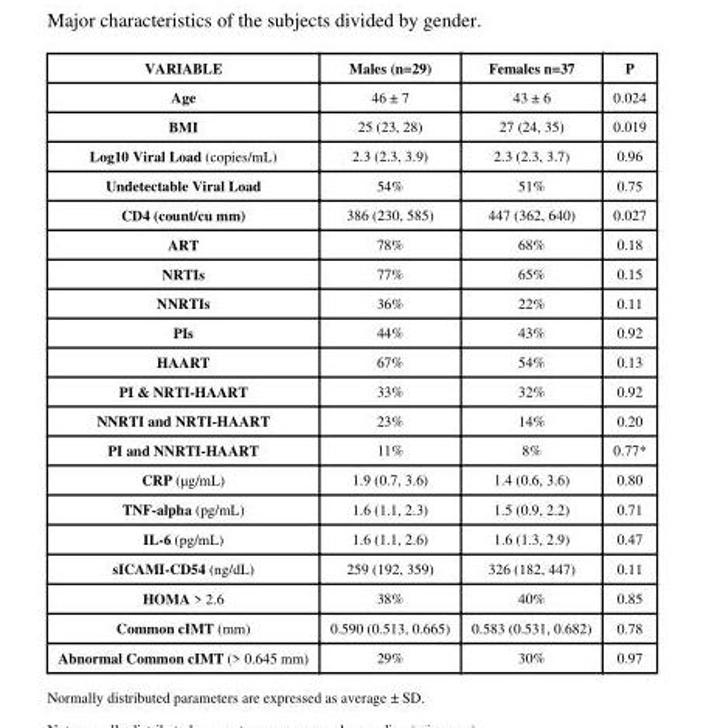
<table><thead><tr><td>VARIABLE</td><td>Males (n=29)</td><td>Females n=37</td><td>P</td></tr></thead><tbody><tr><td>Age</td><td>46 ± 7</td><td>43 ± 6</td><td>0.024</td></tr><tr><td>BMI</td><td>25 (23, 28)</td><td>27 (24, 35)</td><td>0.019</td></tr><tr><td>Log10 Viral Load (copies/mL)</td><td>2.3 (2.3, 3.9)</td><td>2.3 (2.3, 3.7)</td><td>0.96</td></tr><tr><td>Undetectable Viral Load</td><td>54%</td><td>51%</td><td>0.75</td></tr><tr><td>CD4 (count/cu mm)</td><td>386 (230, 585)</td><td>447 (362, 640)</td><td>0.027</td></tr><tr><td>ART</td><td>78%</td><td>68%</td><td>0.18</td></tr><tr><td>NRTIs</td><td>77%</td><td>65%</td><td>0.15</td></tr><tr><td>NNRTIs</td><td>36%</td><td>22%</td><td>0.11</td></tr><tr><td>PIs</td><td>44%</td><td>43%</td><td>0.92</td></tr><tr><td>HAART</td><td>67%</td><td>54%</td><td>0.13</td></tr><tr><td>PI &amp; NRTI-HAART</td><td>33%</td><td>32%</td><td>0.92</td></tr><tr><td>NNRTI and NRTI-HAART</td><td>23%</td><td>14%</td><td>0.20</td></tr><tr><td>PI and NNRTI-HAART</td><td>11%</td><td>8%</td><td>0.77*</td></tr><tr><td>CRP (μg/mL)</td><td>1.9 (0.7, 3.6)</td><td>1.4 (0.6, 3.6)</td><td>0.80</td></tr><tr><td>TNF-alpha (pg/mL)</td><td>1.6 (1.1, 2.3)</td><td>1.5 (0.9, 2.2)</td><td>0.71</td></tr><tr><td>IL-6 (pg/mL)</td><td>1.6 (1.1, 2.6)</td><td>1.6 (1.3, 2.9)</td><td>0.47</td></tr><tr><td>sICAMI-CD54 (ng/dL)</td><td>259 (192, 359)</td><td>326 (182, 447)</td><td>0.11</td></tr><tr><td>HOMA &gt; 2.6</td><td>38%</td><td>40%</td><td>0.85</td></tr><tr><td>Common cIMT (mm)</td><td>0.590 (0.513, 0.665)</td><td>0.583 (0.531, 0.682)</td><td>0.78</td></tr><tr><td>Abnormal Common cIMT (&gt; 0.645 mm)</td><td>29%</td><td>30%</td><td>0.97</td></tr></tbody></table>